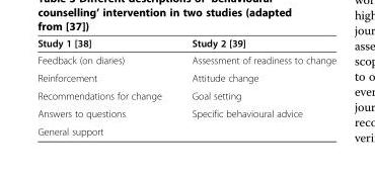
<table><thead><tr><td>Study 1 [38]</td><td>Study 2 [39]</td></tr></thead><tbody><tr><td>Feedback (on diaries)</td><td>Assessment of readiness to change</td></tr><tr><td>Reinforcement</td><td>Attitude change</td></tr><tr><td>Recommendations for change</td><td>Goal setting</td></tr><tr><td>Answers to questions</td><td>Specific behavioural advice</td></tr><tr><td>General support</td><td></td></tr></tbody></table>